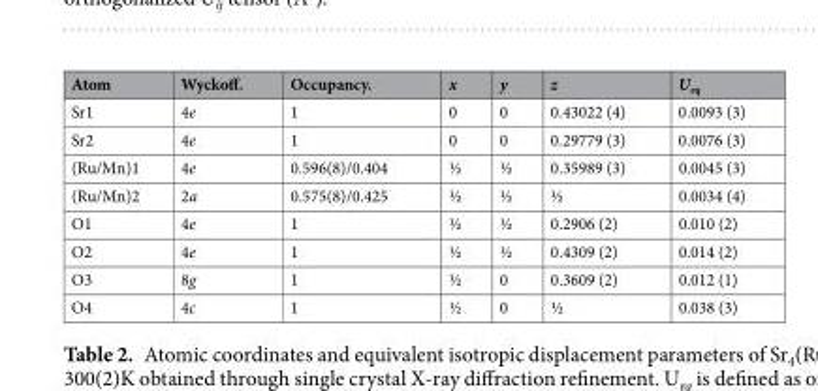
<table><thead><tr><td>Atom</td><td>Wyckoff.</td><td>Occupancy.</td><td>x</td><td>y</td><td>z</td><td>U<sub>eq</sub></td></tr></thead><tbody><tr><td>Sr1</td><td>4e</td><td>1</td><td>0</td><td>0</td><td>0.43022 (4)</td><td>0.0093 (3)</td></tr><tr><td>Sr2</td><td>4e</td><td>1</td><td>0</td><td>0</td><td>0.29779 (3)</td><td>0.0076 (3)</td></tr><tr><td>(Ru/Mn)1</td><td>4e</td><td>0.596(8)/0.404</td><td>½</td><td>½</td><td>0.35989 (3)</td><td>0.0045 (3)</td></tr><tr><td>(Ru/Mn)2</td><td>2a</td><td>0.575(8)/0.425</td><td>½</td><td>½</td><td>½</td><td>0.0034 (4)</td></tr><tr><td>O1</td><td>4e</td><td>1</td><td>½</td><td>½</td><td>0.2906 (2)</td><td>0.010 (2)</td></tr><tr><td>O2</td><td>4e</td><td>1</td><td>½</td><td>½</td><td>0.4309 (2)</td><td>0.014 (2)</td></tr><tr><td>O3</td><td>8g</td><td>1</td><td>½</td><td>0</td><td>0.3609 (2)</td><td>0.012 (1)</td></tr><tr><td>O4</td><td>4c</td><td>1</td><td>½</td><td>0</td><td>½</td><td>0.038 (3)</td></tr></tbody></table>